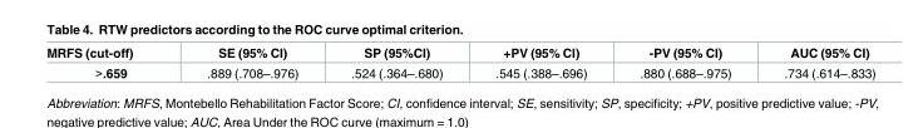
<table><thead><tr><td>MRFS (cut-off)</td><td>SE (95% CI)</td><td>SP (95%CI)</td><td>+PV (95% CI)</td><td>-PV (95% CI)</td><td>AUC (95% CI)</td></tr></thead><tbody><tr><td>&gt;.659</td><td>.889 (.708–.976)</td><td>.524 (.364–.680)</td><td>.545 (.388–.696)</td><td>.880 (.688–.975)</td><td>.734 (.614–.833)</td></tr></tbody></table>